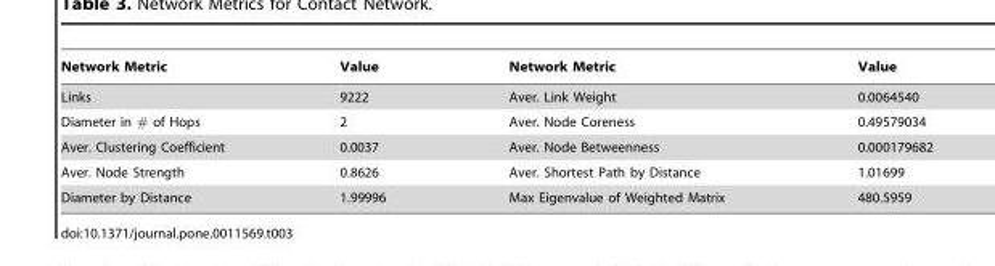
<table><thead><tr><td>Network Metric</td><td>Value</td><td>Network Metric</td><td>Value</td></tr></thead><tbody><tr><td>Links</td><td>9222</td><td>Aver. Link Weight</td><td>0.0064540</td></tr><tr><td>Diameter in # of Hops</td><td>2</td><td>Aver. Node Coreness</td><td>0.49579034</td></tr><tr><td>Aver. Clustering Coefficient</td><td>0.0037</td><td>Aver. Node Betweenness</td><td>0.000179682</td></tr><tr><td>Aver. Node Strength</td><td>0.8626</td><td>Aver. Shortest Path by Distance</td><td>1.01699</td></tr><tr><td>Diameter by Distance</td><td>1.99996</td><td>Max Eigenvalue of Weighted Matrix</td><td>480.5959</td></tr></tbody></table>